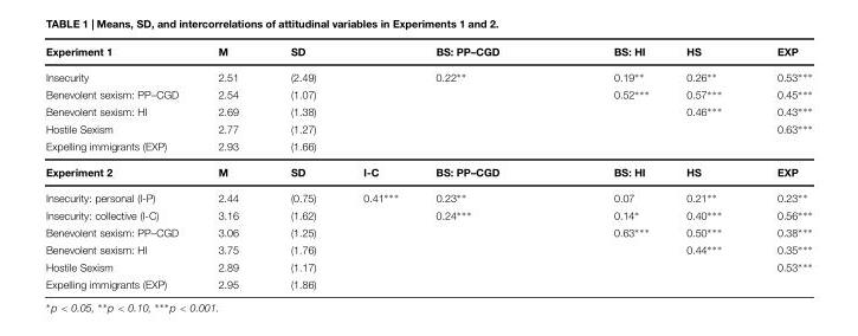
<table><thead><tr><td>Experiment 1</td><td>M</td><td>SD</td><td></td><td>BS: PP–CGD</td><td>BS: HI</td><td>HS</td><td>EXP</td></tr></thead><tbody><tr><td>Insecurity</td><td>2.51</td><td>(2.49)</td><td></td><td>0.22∗∗</td><td>0.19∗∗</td><td>0.26∗∗</td><td>0.53∗∗∗</td></tr><tr><td>Benevolent sexism: PP–CGD</td><td>2.54</td><td>(1.07)</td><td></td><td></td><td>0.52∗∗∗</td><td>0.57∗∗∗</td><td>0.45∗∗∗</td></tr><tr><td>Benevolent sexism: HI</td><td>2.69</td><td>(1.38)</td><td></td><td></td><td></td><td>0.46∗∗∗</td><td>0.43∗∗∗</td></tr><tr><td>Hostile Sexism</td><td>2.77</td><td>(1.27)</td><td></td><td></td><td></td><td></td><td>0.63∗∗∗</td></tr><tr><td>Expelling immigrants (EXP)</td><td>2.93</td><td>(1.66)</td><td></td><td></td><td></td><td></td><td></td></tr><tr><td>Experiment 2</td><td>M</td><td>SD</td><td>I-C</td><td>BS: PP–CGD</td><td>BS: HI</td><td>HS</td><td>EXP</td></tr><tr><td>Insecurity: personal (I-P)</td><td>2.44</td><td>(0.75)</td><td>0.41∗∗∗</td><td>0.23∗∗</td><td>0.07</td><td>0.21∗∗</td><td>0.23∗∗</td></tr><tr><td>Insecurity: collective (I-C)</td><td>3.16</td><td>(1.62)</td><td></td><td>0.24∗∗∗</td><td>0.14∗</td><td>0.40∗∗∗</td><td>0.56∗∗∗</td></tr><tr><td>Benevolent sexism: PP–CGD</td><td>3.06</td><td>(1.25)</td><td></td><td></td><td>0.63∗∗∗</td><td>0.50∗∗∗</td><td>0.38∗∗∗</td></tr><tr><td>Benevolent sexism: HI</td><td>3.75</td><td>(1.76)</td><td></td><td></td><td></td><td>0.44∗∗∗</td><td>0.35∗∗∗</td></tr><tr><td>Hostile Sexism</td><td>2.89</td><td>(1.17)</td><td></td><td></td><td></td><td></td><td>0.53∗∗∗</td></tr><tr><td>Expelling immigrants (EXP)</td><td>2.95</td><td>(1.86)</td><td></td><td></td><td></td><td></td><td></td></tr></tbody></table>